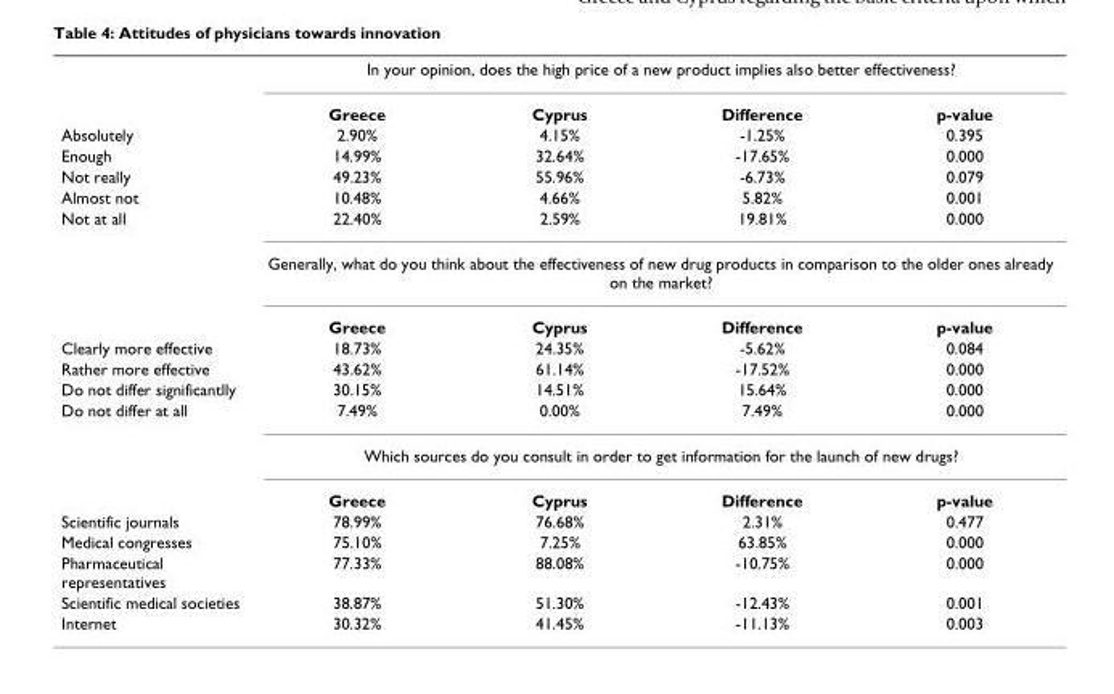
<table><thead><tr><td rowspan="2"></td><td colspan="4">In your opinion, does the high price of a new product implies also better effectiveness?</td></tr><tr><td>Greece</td><td>Cyprus</td><td>Difference</td><td>p-value</td></tr></thead><tbody><tr><td>Absolutely</td><td>2.90%</td><td>4.15%</td><td>-1.25%</td><td>0.395</td></tr><tr><td>Enough</td><td>14.99%</td><td>32.64%</td><td>-17.65%</td><td>0.000</td></tr><tr><td>Not really</td><td>49.23%</td><td>55.96%</td><td>-6.73%</td><td>0.079</td></tr><tr><td>Almost not</td><td>10.48%</td><td>4.66%</td><td>5.82%</td><td>0.001</td></tr><tr><td rowspan="3">Not at all</td><td>22.40%</td><td>2.59%</td><td>19.81%</td><td>0.000</td></tr><tr><td colspan="4">Generally, what do you think about the effectiveness of new drug products in comparison to the older ones already on the market?</td></tr><tr><td>Greece</td><td>Cyprus</td><td>Difference</td><td>p-value</td></tr><tr><td>Clearly more effective</td><td>18.73%</td><td>24.35%</td><td>-5.62%</td><td>0.084</td></tr><tr><td>Rather more effective</td><td>43.62%</td><td>61.14%</td><td>-17.52%</td><td>0.000</td></tr><tr><td>Do not differ significantlly</td><td>30.15%</td><td>14.51%</td><td>15.64%</td><td>0.000</td></tr><tr><td rowspan="3">Do not differ at all</td><td>7.49%</td><td>0.00%</td><td>7.49%</td><td>0.000</td></tr><tr><td colspan="4">Which sources do you consult in order to get information for the launch of new drugs?</td></tr><tr><td>Greece</td><td>Cyprus</td><td>Difference</td><td>p-value</td></tr><tr><td>Scientific journals</td><td>78.99%</td><td>76.68%</td><td>2.31%</td><td>0.477</td></tr><tr><td>Medical congresses</td><td>75.10%</td><td>7.25%</td><td>63.85%</td><td>0.000</td></tr><tr><td>Pharmaceutical representatives</td><td>77.33%</td><td>88.08%</td><td>-10.75%</td><td>0.000</td></tr><tr><td>Scientific medical societies</td><td>38.87%</td><td>51.30%</td><td>-12.43%</td><td>0.001</td></tr><tr><td>Internet</td><td>30.32%</td><td>41.45%</td><td>-11.13%</td><td>0.003</td></tr></tbody></table>